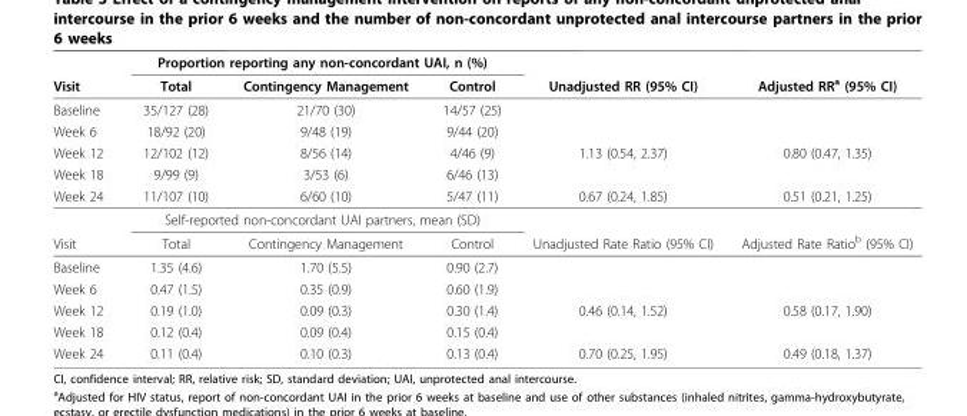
<table><thead><tr><td rowspan="2">Visit</td><td colspan="3">Proportion reporting any non-concordant UAI, n (%)</td><td rowspan="2">Unadjusted RR (95% CI)</td><td rowspan="2">Adjusted RR<sup>a</sup> (95% CI)</td></tr><tr><td>Total</td><td>Contingency Management</td><td>Control</td></tr></thead><tbody><tr><td>Baseline</td><td>35/127 (28)</td><td>21/70 (30)</td><td>14/57 (25)</td><td></td><td></td></tr><tr><td>Week 6</td><td>18/92 (20)</td><td>9/48 (19)</td><td>9/44 (20)</td><td></td><td></td></tr><tr><td>Week 12</td><td>12/102 (12)</td><td>8/56 (14)</td><td>4/46 (9)</td><td>1.13 (0.54, 2.37)</td><td>0.80 (0.47, 1.35)</td></tr><tr><td>Week 18</td><td>9/99 (9)</td><td>3/53 (6)</td><td>6/46 (13)</td><td></td><td></td></tr><tr><td rowspan="2">Week 24</td><td>11/107 (10)</td><td>6/60 (10)</td><td>5/47 (11)</td><td>0.67 (0.24, 1.85)</td><td>0.51 (0.21, 1.25)</td></tr><tr><td colspan="3">Self-reported non-concordant UAI partners, mean (SD)</td><td></td><td></td></tr><tr><td>Visit</td><td>Total</td><td>Contingency Management</td><td>Control</td><td>Unadjusted Rate Ratio (95% CI)</td><td>Adjusted Rate Ratio<sup>b</sup> (95% CI)</td></tr><tr><td>Baseline</td><td>1.35 (4.6)</td><td>1.70 (5.5)</td><td>0.90 (2.7)</td><td></td><td></td></tr><tr><td>Week 6</td><td>0.47 (1.5)</td><td>0.35 (0.9)</td><td>0.60 (1.9)</td><td></td><td></td></tr><tr><td>Week 12</td><td>0.19 (1.0)</td><td>0.09 (0.3)</td><td>0.30 (1.4)</td><td>0.46 (0.14, 1.52)</td><td>0.58 (0.17, 1.90)</td></tr><tr><td>Week 18</td><td>0.12 (0.4)</td><td>0.09 (0.4)</td><td>0.15 (0.4)</td><td></td><td></td></tr><tr><td>Week 24</td><td>0.11 (0.4)</td><td>0.10 (0.3)</td><td>0.13 (0.4)</td><td>0.70 (0.25, 1.95)</td><td>0.49 (0.18, 1.37)</td></tr></tbody></table>